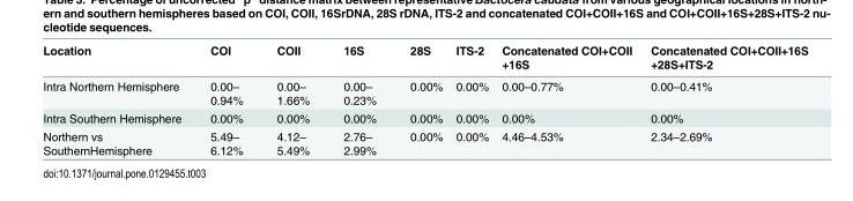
<table><thead><tr><td>Location</td><td>COI</td><td>COII</td><td>16S</td><td>28S</td><td>ITS-2</td><td>Concatenated COI+COII +16S</td><td>Concatenated COI+COII+16S +28S+ITS-2</td></tr></thead><tbody><tr><td>Intra Northern Hemisphere</td><td>0.00– 0.94%</td><td>0.00– 1.66%</td><td>0.00– 0.23%</td><td>0.00%</td><td>0.00%</td><td>0.00–0.77%</td><td>0.00–0.41%</td></tr><tr><td>Intra Southern Hemisphere</td><td>0.00%</td><td>0.00%</td><td>0.00%</td><td>0.00%</td><td>0.00%</td><td>0.00%</td><td>0.00%</td></tr><tr><td>Northern vs SouthernHemisphere</td><td>5.49– 6.12%</td><td>4.12– 5.49%</td><td>2.76– 2.99%</td><td>0.00%</td><td>0.00%</td><td>4.46–4.53%</td><td>2.34–2.69%</td></tr></tbody></table>